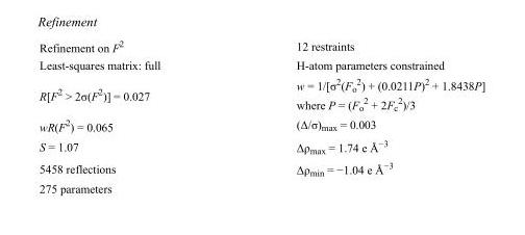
<table><tbody><tr><td>Refinement on F<sup>2</sup></td><td>12 restraints</td></tr><tr><td>Least-squares matrix: full</td><td>H-atom parameters constrained</td></tr><tr><td>R[F<sup>2</sup> &gt; 2σ(F<sup>2</sup>)] = 0.027</td><td>w = 1/[σ<sup>2</sup>(F<sub>o</sub> <sup>2</sup>) + (0.0211P)<sup>2</sup> + 1.8438P] where P = (F<sub>o</sub> <sup>2</sup> + 2F<sub>c</sub> <sup>2</sup>)/3</td></tr><tr><td>wR(F<sup>2</sup>) = 0.065</td><td>(Δ/σ)<sub>max</sub> = 0.003</td></tr><tr><td>S = 1.07</td><td>Δρ<sub>max</sub> = 1.74 e Å<sup>−3</sup></td></tr><tr><td>5458 reflections</td><td>Δρ<sub>min</sub> = −1.04 e Å<sup>−3</sup></td></tr><tr><td>275 parameters</td><td></td></tr></tbody></table>